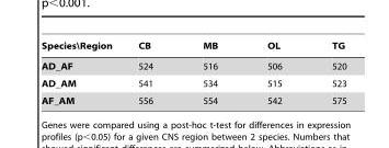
<table><thead><tr><td>Species\Region</td><td>CB</td><td>MB</td><td>OL</td><td>TG</td></tr></thead><tbody><tr><td>AD_AF</td><td>524</td><td>516</td><td>506</td><td>520</td></tr><tr><td>AD_AM</td><td>541</td><td>534</td><td>515</td><td>523</td></tr><tr><td>AF_AM</td><td>556</td><td>554</td><td>542</td><td>575</td></tr></tbody></table>